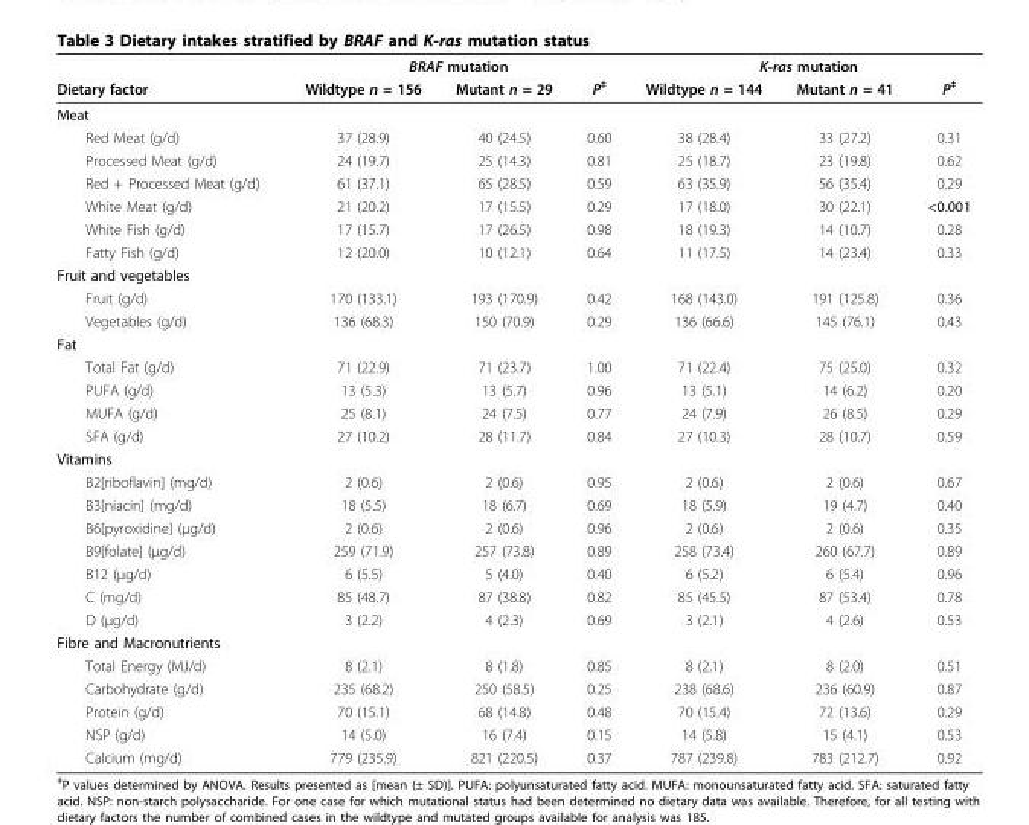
<table><thead><tr><td rowspan="2">Dietary factor</td><td colspan="3">BRAF mutation</td><td colspan="3">K-ras mutation</td></tr><tr><td>Wildtype n = 156</td><td>Mutant n = 29</td><td>P<sup>‡</sup></td><td>Wildtype n = 144</td><td>Mutant n = 41</td><td>P<sup>‡</sup></td></tr></thead><tbody><tr><td colspan="7">Meat</td></tr><tr><td>Red Meat (g/d)</td><td>37 (28.9)</td><td>40 (24.5)</td><td>0.60</td><td>38 (28.4)</td><td>33 (27.2)</td><td>0.31</td></tr><tr><td>Processed Meat (g/d)</td><td>24 (19.7)</td><td>25 (14.3)</td><td>0.81</td><td>25 (18.7)</td><td>23 (19.8)</td><td>0.62</td></tr><tr><td>Red + Processed Meat (g/d)</td><td>61 (37.1)</td><td>65 (28.5)</td><td>0.59</td><td>63 (35.9)</td><td>56 (35.4)</td><td>0.29</td></tr><tr><td>White Meat (g/d)</td><td>21 (20.2)</td><td>17 (15.5)</td><td>0.29</td><td>17 (18.0)</td><td>30 (22.1)</td><td>&lt;0.001</td></tr><tr><td>White Fish (g/d)</td><td>17 (15.7)</td><td>17 (26.5)</td><td>0.98</td><td>18 (19.3)</td><td>14 (10.7)</td><td>0.28</td></tr><tr><td>Fatty Fish (g/d)</td><td>12 (20.0)</td><td>10 (12.1)</td><td>0.64</td><td>11 (17.5)</td><td>14 (23.4)</td><td>0.33</td></tr><tr><td colspan="7">Fruit and vegetables</td></tr><tr><td>Fruit (g/d)</td><td>170 (133.1)</td><td>193 (170.9)</td><td>0.42</td><td>168 (143.0)</td><td>191 (125.8)</td><td>0.36</td></tr><tr><td>Vegetables (g/d)</td><td>136 (68.3)</td><td>150 (70.9)</td><td>0.29</td><td>136 (66.6)</td><td>145 (76.1)</td><td>0.43</td></tr><tr><td colspan="7">Fat</td></tr><tr><td>Total Fat (g/d)</td><td>71 (22.9)</td><td>71 (23.7)</td><td>1.00</td><td>71 (22.4)</td><td>75 (25.0)</td><td>0.32</td></tr><tr><td>PUFA (g/d)</td><td>13 (5.3)</td><td>13 (5.7)</td><td>0.96</td><td>13 (5.1)</td><td>14 (6.2)</td><td>0.20</td></tr><tr><td>MUFA (g/d)</td><td>25 (8.1)</td><td>24 (7.5)</td><td>0.77</td><td>24 (7.9)</td><td>26 (8.5)</td><td>0.29</td></tr><tr><td>SFA (g/d)</td><td>27 (10.2)</td><td>28 (11.7)</td><td>0.84</td><td>27 (10.3)</td><td>28 (10.7)</td><td>0.59</td></tr><tr><td colspan="7">Vitamins</td></tr><tr><td>B2[riboflavin] (mg/d)</td><td>2 (0.6)</td><td>2 (0.6)</td><td>0.95</td><td>2 (0.6)</td><td>2 (0.6)</td><td>0.67</td></tr><tr><td>B3[niacin] (mg/d)</td><td>18 (5.5)</td><td>18 (6.7)</td><td>0.69</td><td>18 (5.9)</td><td>19 (4.7)</td><td>0.40</td></tr><tr><td>B6[pyroxidine] (μg/d)</td><td>2 (0.6)</td><td>2 (0.6)</td><td>0.96</td><td>2 (0.6)</td><td>2 (0.6)</td><td>0.35</td></tr><tr><td>B9[folate] (μg/d)</td><td>259 (71.9)</td><td>257 (73.8)</td><td>0.89</td><td>258 (73.4)</td><td>260 (67.7)</td><td>0.89</td></tr><tr><td>B12 (μg/d)</td><td>6 (5.5)</td><td>5 (4.0)</td><td>0.40</td><td>6 (5.2)</td><td>6 (5.4)</td><td>0.96</td></tr><tr><td>C (mg/d)</td><td>85 (48.7)</td><td>87 (38.8)</td><td>0.82</td><td>85 (45.5)</td><td>87 (53.4)</td><td>0.78</td></tr><tr><td>D (μg/d)</td><td>3 (2.2)</td><td>4 (2.3)</td><td>0.69</td><td>3 (2.1)</td><td>4 (2.6)</td><td>0.53</td></tr><tr><td colspan="7">Fibre and Macronutrients</td></tr><tr><td>Total Energy (MJ/d)</td><td>8 (2.1)</td><td>8 (1.8)</td><td>0.85</td><td>8 (2.1)</td><td>8 (2.0)</td><td>0.51</td></tr><tr><td>Carbohydrate (g/d)</td><td>235 (68.2)</td><td>250 (58.5)</td><td>0.25</td><td>238 (68.6)</td><td>236 (60.9)</td><td>0.87</td></tr><tr><td>Protein (g/d)</td><td>70 (15.1)</td><td>68 (14.8)</td><td>0.48</td><td>70 (15.4)</td><td>72 (13.6)</td><td>0.29</td></tr><tr><td>NSP (g/d)</td><td>14 (5.0)</td><td>16 (7.4)</td><td>0.15</td><td>14 (5.8)</td><td>15 (4.1)</td><td>0.53</td></tr><tr><td>Calcium (mg/d)</td><td>779 (235.9)</td><td>821 (220.5)</td><td>0.37</td><td>787 (239.8)</td><td>783 (212.7)</td><td>0.92</td></tr></tbody></table>